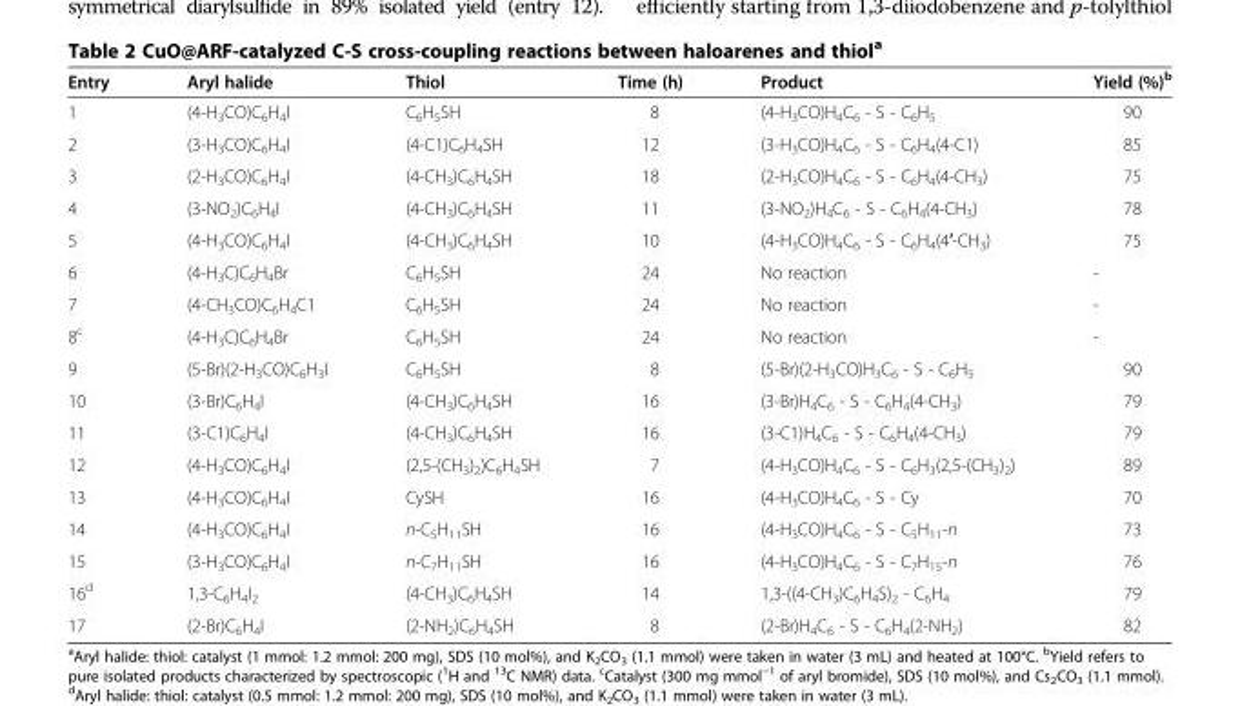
<table><thead><tr><td>Entry</td><td>Aryl halide</td><td>Thiol</td><td>Time (h)</td><td>Product</td><td>Yield (%)<sup>b</sup></td></tr></thead><tbody><tr><td>1</td><td>(4-H<sub>3</sub>CO)C<sub>6</sub>H<sub>4</sub>I</td><td>C<sub>6</sub>H<sub>5</sub>SH</td><td>8</td><td>(4-H<sub>3</sub>CO)H<sub>4</sub>C<sub>6</sub> - S - C<sub>6</sub>H<sub>5</sub></td><td>90</td></tr><tr><td>2</td><td>(3-H<sub>3</sub>CO)C<sub>6</sub>H<sub>4</sub>I</td><td>(4-C1)C<sub>6</sub>H<sub>4</sub>SH</td><td>12</td><td>(3-H<sub>3</sub>CO)H<sub>4</sub>C<sub>6</sub> - S - C<sub>6</sub>H<sub>4</sub>(4-C1)</td><td>85</td></tr><tr><td>3</td><td>(2-H<sub>3</sub>CO)C<sub>6</sub>H<sub>4</sub>I</td><td>(4-CH<sub>3</sub>)C<sub>6</sub>H<sub>4</sub>SH</td><td>18</td><td>(2-H<sub>3</sub>CO)H<sub>4</sub>C<sub>6</sub> - S - C<sub>6</sub>H<sub>4</sub>(4-CH<sub>3</sub>)</td><td>75</td></tr><tr><td>4</td><td>(3-NO<sub>2</sub>)C<sub>6</sub>H<sub>4</sub>I</td><td>(4-CH<sub>3</sub>)C<sub>6</sub>H<sub>4</sub>SH</td><td>11</td><td>(3-NO<sub>2</sub>)H<sub>4</sub>C<sub>6</sub> - S - C<sub>6</sub>H<sub>4</sub>(4-CH<sub>3</sub>)</td><td>78</td></tr><tr><td>5</td><td>(4-H<sub>3</sub>CO)C<sub>6</sub>H<sub>4</sub>I</td><td>(4-CH<sub>3</sub>)C<sub>6</sub>H<sub>4</sub>SH</td><td>10</td><td>(4-H<sub>3</sub>CO)H<sub>4</sub>C<sub>6</sub> - S - C<sub>6</sub>H<sub>4</sub>(4′-CH<sub>3</sub>)</td><td>75</td></tr><tr><td>6</td><td>(4-H<sub>3</sub>C)C<sub>6</sub>H<sub>4</sub>Br</td><td>C<sub>6</sub>H<sub>5</sub>SH</td><td>24</td><td>No reaction</td><td>-</td></tr><tr><td>7</td><td>(4-CH<sub>3</sub>CO)C<sub>6</sub>H<sub>4</sub>C1</td><td>C<sub>6</sub>H<sub>5</sub>SH</td><td>24</td><td>No reaction</td><td>-</td></tr><tr><td>8<sup>c</sup></td><td>(4-H<sub>3</sub>C)C<sub>6</sub>H<sub>4</sub>Br</td><td>C<sub>6</sub>H<sub>5</sub>SH</td><td>24</td><td>No reaction</td><td>-</td></tr><tr><td>9</td><td>(5-Br)(2-H<sub>3</sub>CO)C<sub>6</sub>H<sub>3</sub>I</td><td>C<sub>6</sub>H<sub>5</sub>SH</td><td>8</td><td>(5-Br)(2-H<sub>3</sub>CO)H<sub>3</sub>C<sub>6</sub> - S - C<sub>6</sub>H<sub>5</sub></td><td>90</td></tr><tr><td>10</td><td>(3-Br)C<sub>6</sub>H<sub>4</sub>I</td><td>(4-CH<sub>3</sub>)C<sub>6</sub>H<sub>4</sub>SH</td><td>16</td><td>(3-Br)H<sub>4</sub>C<sub>6</sub> - S - C<sub>6</sub>H<sub>4</sub>(4-CH<sub>3</sub>)</td><td>79</td></tr><tr><td>11</td><td>(3-C1)C<sub>6</sub>H<sub>4</sub>I</td><td>(4-CH<sub>3</sub>)C<sub>6</sub>H<sub>4</sub>SH</td><td>16</td><td>(3-C1)H<sub>4</sub>C<sub>6</sub> - S - C<sub>6</sub>H<sub>4</sub>(4-CH<sub>3</sub>)</td><td>79</td></tr><tr><td>12</td><td>(4-H<sub>3</sub>CO)C<sub>6</sub>H<sub>4</sub>I</td><td>(2,5-(CH<sub>3</sub>)<sub>2</sub>)C<sub>6</sub>H<sub>4</sub>SH</td><td>7</td><td>(4-H<sub>3</sub>CO)H<sub>4</sub>C<sub>6</sub> - S - C<sub>6</sub>H<sub>3</sub>(2,5-(CH<sub>3</sub>)<sub>2</sub>)</td><td>89</td></tr><tr><td>13</td><td>(4-H<sub>3</sub>CO)C<sub>6</sub>H<sub>4</sub>I</td><td>CySH</td><td>16</td><td>(4-H<sub>3</sub>CO)H<sub>4</sub>C<sub>6</sub> - S - Cy</td><td>70</td></tr><tr><td>14</td><td>(4-H<sub>3</sub>CO)C<sub>6</sub>H<sub>4</sub>I</td><td>n-C<sub>5</sub>H<sub>11</sub>SH</td><td>16</td><td>(4-H<sub>3</sub>CO)H<sub>4</sub>C<sub>6</sub> - S - C<sub>5</sub>H<sub>11</sub>-n</td><td>73</td></tr><tr><td>15</td><td>(3-H<sub>3</sub>CO)C<sub>6</sub>H<sub>4</sub>I</td><td>n-C<sub>7</sub>H<sub>11</sub>SH</td><td>16</td><td>(4-H<sub>3</sub>CO)H<sub>4</sub>C<sub>6</sub> - S - C<sub>7</sub>H<sub>15</sub>-n</td><td>76</td></tr><tr><td>16<sup>d</sup></td><td>1,3-C<sub>6</sub>H<sub>4</sub>I<sub>2</sub></td><td>(4-CH<sub>3</sub>)C<sub>6</sub>H<sub>4</sub>SH</td><td>14</td><td>1,3-((4-CH<sub>3</sub>)C<sub>6</sub>H<sub>4</sub>S)<sub>2</sub> - C<sub>6</sub>H<sub>4</sub></td><td>79</td></tr><tr><td>17</td><td>(2-Br)C<sub>6</sub>H<sub>4</sub>I</td><td>(2-NH<sub>2</sub>)C<sub>6</sub>H<sub>4</sub>SH</td><td>8</td><td>(2-Br)H<sub>4</sub>C<sub>6</sub> - S - C<sub>6</sub>H<sub>4</sub>(2-NH<sub>2</sub>)</td><td>82</td></tr></tbody></table>